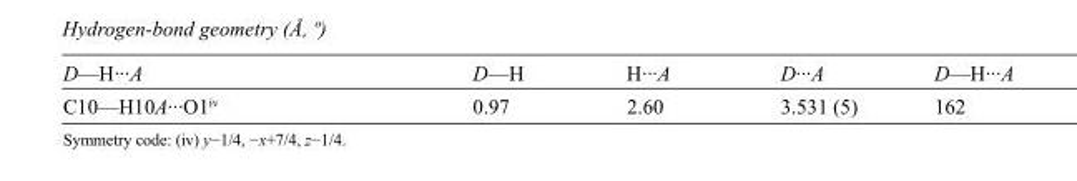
<table><tbody><tr><td>D—H···A</td><td>D—H</td><td>H···A</td><td>D···A</td><td>D—H···A</td></tr><tr><td>C10—H10A···O1<sup>iv</sup></td><td>0.97</td><td>2.60</td><td>3.531 (5)</td><td>162</td></tr></tbody></table>